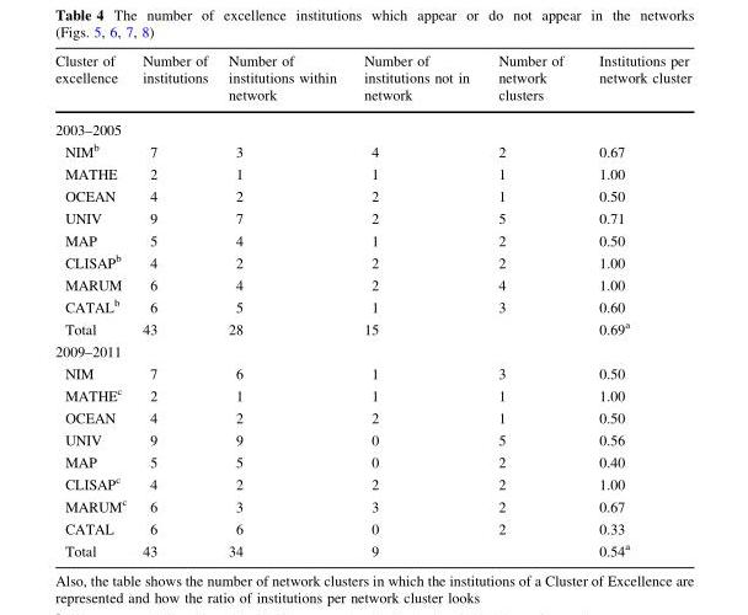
<table><thead><tr><td>Cluster of excellence</td><td>Number of institutions</td><td>Number of institutions within network</td><td>Number of institutions not in network</td><td>Number of network clusters</td><td>Institutions per network cluster</td></tr></thead><tbody><tr><td colspan="6">2003–2005</td></tr><tr><td>NIM<sup>b</sup></td><td>7</td><td>3</td><td>4</td><td>2</td><td>0.67</td></tr><tr><td>MATHE</td><td>2</td><td>1</td><td>1</td><td>1</td><td>1.00</td></tr><tr><td>OCEAN</td><td>4</td><td>2</td><td>2</td><td>1</td><td>0.50</td></tr><tr><td>UNIV</td><td>9</td><td>7</td><td>2</td><td>5</td><td>0.71</td></tr><tr><td>MAP</td><td>5</td><td>4</td><td>1</td><td>2</td><td>0.50</td></tr><tr><td>CLISAP<sup>b</sup></td><td>4</td><td>2</td><td>2</td><td>2</td><td>1.00</td></tr><tr><td>MARUM</td><td>6</td><td>4</td><td>2</td><td>4</td><td>1.00</td></tr><tr><td>CATAL<sup>b</sup></td><td>6</td><td>5</td><td>1</td><td>3</td><td>0.60</td></tr><tr><td>Total</td><td>43</td><td>28</td><td>15</td><td></td><td>0.69<sup>a</sup></td></tr><tr><td colspan="6">2009–2011</td></tr><tr><td>NIM</td><td>7</td><td>6</td><td>1</td><td>3</td><td>0.50</td></tr><tr><td>MATHE<sup>c</sup></td><td>2</td><td>1</td><td>1</td><td>1</td><td>1.00</td></tr><tr><td>OCEAN</td><td>4</td><td>2</td><td>2</td><td>1</td><td>0.50</td></tr><tr><td>UNIV</td><td>9</td><td>9</td><td>0</td><td>5</td><td>0.56</td></tr><tr><td>MAP</td><td>5</td><td>5</td><td>0</td><td>2</td><td>0.40</td></tr><tr><td>CLISAP<sup>c</sup></td><td>4</td><td>2</td><td>2</td><td>2</td><td>1.00</td></tr><tr><td>MARUM<sup>c</sup></td><td>6</td><td>3</td><td>3</td><td>2</td><td>0.67</td></tr><tr><td>CATAL</td><td>6</td><td>6</td><td>0</td><td>2</td><td>0.33</td></tr><tr><td>Total</td><td>43</td><td>34</td><td>9</td><td></td><td>0.54<sup>a</sup></td></tr></tbody></table>